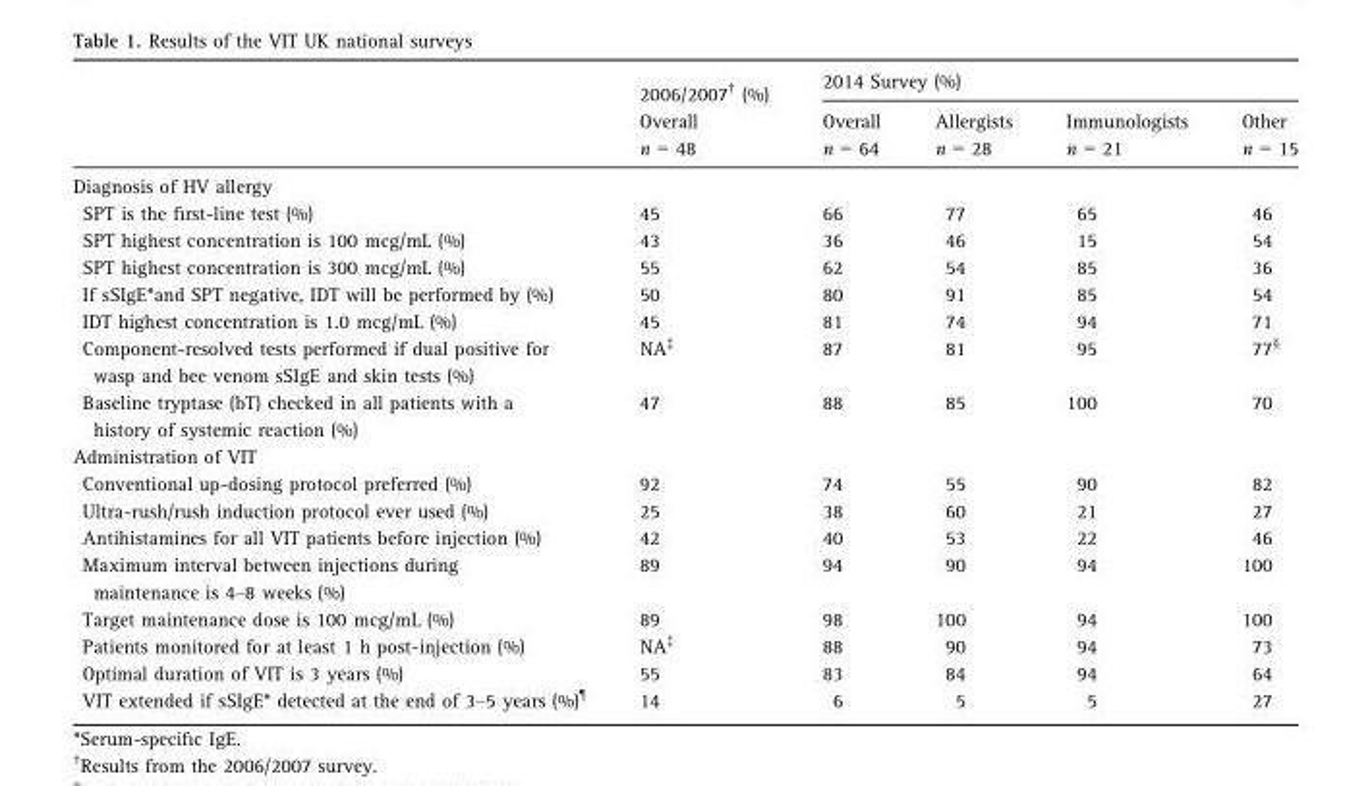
<table><thead><tr><td rowspan="2"></td><td rowspan="2">2006/2007† (%) Overall n = 48</td><td colspan="4">2014 Survey (%)</td></tr><tr><td>Overall n = 64</td><td>Allergists n = 28</td><td>Immunologists n = 21</td><td>Other n = 15</td></tr></thead><tbody><tr><td colspan="6">Diagnosis of HV allergy</td></tr><tr><td>SPT is the first-line test (%)</td><td>45</td><td>66</td><td>77</td><td>65</td><td>46</td></tr><tr><td>SPT highest concentration is 100 mcg/mL (%)</td><td>43</td><td>36</td><td>46</td><td>15</td><td>54</td></tr><tr><td>SPT highest concentration is 300 mcg/mL (%)</td><td>55</td><td>62</td><td>54</td><td>85</td><td>36</td></tr><tr><td>If sSIgE*and SPT negative, IDT will be performed by (%)</td><td>50</td><td>80</td><td>91</td><td>85</td><td>54</td></tr><tr><td>IDT highest concentration is 1.0 mcg/mL (%)</td><td>45</td><td>81</td><td>74</td><td>94</td><td>71</td></tr><tr><td>Component-resolved tests performed if dual positive for wasp and bee venom sSIgE and skin tests (%)</td><td>NA‡</td><td>87</td><td>81</td><td>95</td><td>77§</td></tr><tr><td>Baseline tryptase (bT) checked in all patients with a history of systemic reaction (%)</td><td>47</td><td>88</td><td>85</td><td>100</td><td>70</td></tr><tr><td colspan="6">Administration of VIT</td></tr><tr><td>Conventional up-dosing protocol preferred (%)</td><td>92</td><td>74</td><td>55</td><td>90</td><td>82</td></tr><tr><td>Ultra-rush/rush induction protocol ever used (%)</td><td>25</td><td>38</td><td>60</td><td>21</td><td>27</td></tr><tr><td>Antihistamines for all VIT patients before injection (%)</td><td>42</td><td>40</td><td>53</td><td>22</td><td>46</td></tr><tr><td>Maximum interval between injections during maintenance is 4–8 weeks (%)</td><td>89</td><td>94</td><td>90</td><td>94</td><td>100</td></tr><tr><td>Target maintenance dose is 100 mcg/mL (%)</td><td>89</td><td>98</td><td>100</td><td>94</td><td>100</td></tr><tr><td>Patients monitored for at least 1 h post-injection (%)</td><td>NA‡</td><td>88</td><td>90</td><td>94</td><td>73</td></tr><tr><td>Optimal duration of VIT is 3 years (%)</td><td>55</td><td>83</td><td>84</td><td>94</td><td>64</td></tr><tr><td>VIT extended if sSIgE* detected at the end of 3–5 years (%)¶</td><td>14</td><td>6</td><td>5</td><td>5</td><td>27</td></tr></tbody></table>